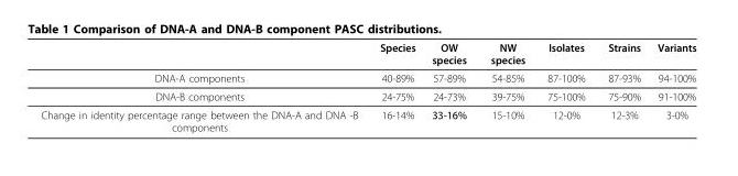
<table><thead><tr><td></td><td>Species</td><td>OW species</td><td>NW species</td><td>Isolates</td><td>Strains</td><td>Variants</td></tr></thead><tbody><tr><td>DNA-A components</td><td>40-89%</td><td>57-89%</td><td>54-85%</td><td>87-100%</td><td>87-93%</td><td>94-100%</td></tr><tr><td>DNA-B components</td><td>24-75%</td><td>24-73%</td><td>39-75%</td><td>75-100%</td><td>75-90%</td><td>91-100%</td></tr><tr><td>Change in identity percentage range between the DNA-A and DNA -B components</td><td>16-14%</td><td>33-16%</td><td>15-10%</td><td>12-0%</td><td>12-3%</td><td>3-0%</td></tr></tbody></table>